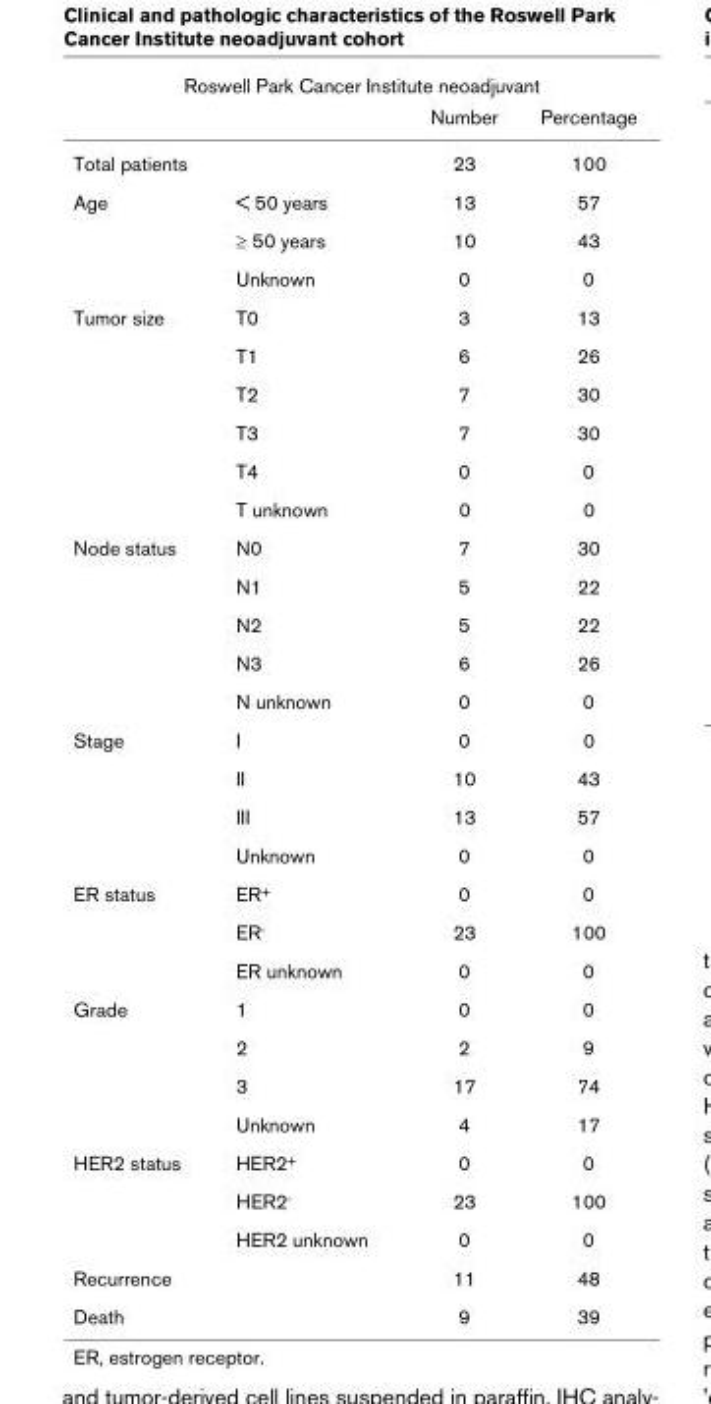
<table><thead><tr><td colspan="4">Roswell Park Cancer Institute neoadjuvant</td></tr><tr><td></td><td></td><td>Number</td><td>Percentage</td></tr></thead><tbody><tr><td>Total patients</td><td></td><td>23</td><td>100</td></tr><tr><td rowspan="3">Age</td><td>&lt; 50 years</td><td>13</td><td>57</td></tr><tr><td>≥ 50 years</td><td>10</td><td>43</td></tr><tr><td>Unknown</td><td>0</td><td>0</td></tr><tr><td rowspan="6">Tumor size</td><td>T0</td><td>3</td><td>13</td></tr><tr><td>T1</td><td>6</td><td>26</td></tr><tr><td>T2</td><td>7</td><td>30</td></tr><tr><td>T3</td><td>7</td><td>30</td></tr><tr><td>T4</td><td>0</td><td>0</td></tr><tr><td>T unknown</td><td>0</td><td>0</td></tr><tr><td rowspan="5">Node status</td><td>N0</td><td>7</td><td>30</td></tr><tr><td>N1</td><td>5</td><td>22</td></tr><tr><td>N2</td><td>5</td><td>22</td></tr><tr><td>N3</td><td>6</td><td>26</td></tr><tr><td>N unknown</td><td>0</td><td>0</td></tr><tr><td rowspan="4">Stage</td><td>I</td><td>0</td><td>0</td></tr><tr><td>II</td><td>10</td><td>43</td></tr><tr><td>III</td><td>13</td><td>57</td></tr><tr><td>Unknown</td><td>0</td><td>0</td></tr><tr><td rowspan="3">ER status</td><td>ER<sup>+</sup></td><td>0</td><td>0</td></tr><tr><td>ER<sup>-</sup></td><td>23</td><td>100</td></tr><tr><td>ER unknown</td><td>0</td><td>0</td></tr><tr><td rowspan="4">Grade</td><td>1</td><td>0</td><td>0</td></tr><tr><td>2</td><td>2</td><td>9</td></tr><tr><td>3</td><td>17</td><td>74</td></tr><tr><td>Unknown</td><td>4</td><td>17</td></tr><tr><td rowspan="3">HER2 status</td><td>HER2<sup>+</sup></td><td>0</td><td>0</td></tr><tr><td>HER2<sup>-</sup></td><td>23</td><td>100</td></tr><tr><td>HER2 unknown</td><td>0</td><td>0</td></tr><tr><td>Recurrence</td><td></td><td>11</td><td>48</td></tr><tr><td>Death</td><td></td><td>9</td><td>39</td></tr></tbody></table>